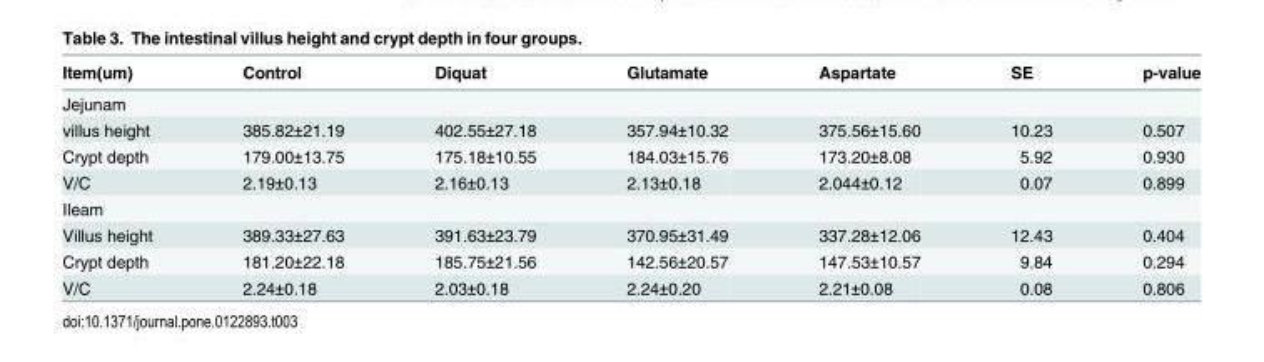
<table><thead><tr><td>Item(um)</td><td>Control</td><td>Diquat</td><td>Glutamate</td><td>Aspartate</td><td>SE</td><td>p-value</td></tr></thead><tbody><tr><td colspan="7">Jejunam</td></tr><tr><td>villus height</td><td>385.82±21.19</td><td>402.55±27.18</td><td>357.94±10.32</td><td>375.56±15.60</td><td>10.23</td><td>0.507</td></tr><tr><td>Crypt depth</td><td>179.00±13.75</td><td>175.18±10.55</td><td>184.03±15.76</td><td>173.20±8.08</td><td>5.92</td><td>0.930</td></tr><tr><td>V/C</td><td>2.19±0.13</td><td>2.16±0.13</td><td>2.13±0.18</td><td>2.044±0.12</td><td>0.07</td><td>0.899</td></tr><tr><td colspan="7">Ileam</td></tr><tr><td>Villus height</td><td>389.33±27.63</td><td>391.63±23.79</td><td>370.95±31.49</td><td>337.28±12.06</td><td>12.43</td><td>0.404</td></tr><tr><td>Crypt depth</td><td>181.20±22.18</td><td>185.75±21.56</td><td>142.56±20.57</td><td>147.53±10.57</td><td>9.84</td><td>0.294</td></tr><tr><td>V/C</td><td>2.24±0.18</td><td>2.03±0.18</td><td>2.24±0.20</td><td>2.21±0.08</td><td>0.08</td><td>0.806</td></tr></tbody></table>